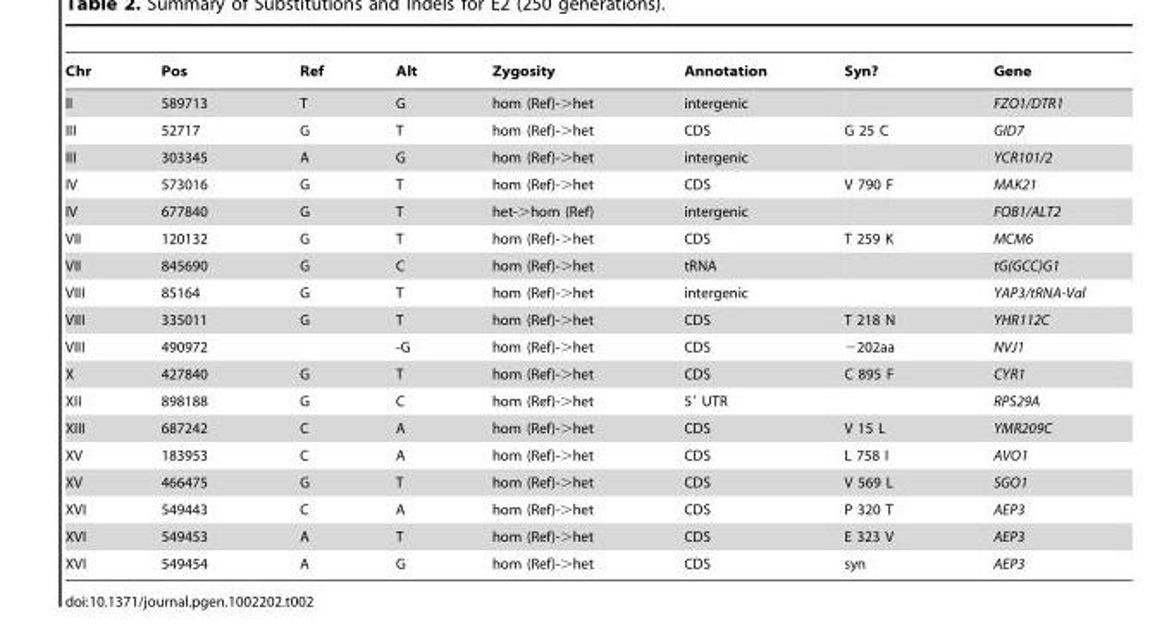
<table><thead><tr><td>Chr</td><td>Pos</td><td>Ref</td><td>Alt</td><td>Zygosity</td><td>Annotation</td><td>Syn?</td><td>Gene</td></tr></thead><tbody><tr><td>II</td><td>589713</td><td>T</td><td>G</td><td>hom (Ref)-&gt;het</td><td>intergenic</td><td></td><td>FZO1/DTR1</td></tr><tr><td>III</td><td>52717</td><td>G</td><td>T</td><td>hom (Ref)-&gt;het</td><td>CDS</td><td>G 25 C</td><td>GID7</td></tr><tr><td>III</td><td>303345</td><td>A</td><td>G</td><td>hom (Ref)-&gt;het</td><td>intergenic</td><td></td><td>YCR101/2</td></tr><tr><td>IV</td><td>573016</td><td>G</td><td>T</td><td>hom (Ref)-&gt;het</td><td>CDS</td><td>V 790 F</td><td>MAK21</td></tr><tr><td>IV</td><td>677840</td><td>G</td><td>T</td><td>het-&gt;hom (Ref)</td><td>intergenic</td><td></td><td>FOB1/ALT2</td></tr><tr><td>VII</td><td>120132</td><td>G</td><td>T</td><td>hom (Ref)-&gt;het</td><td>CDS</td><td>T 259 K</td><td>MCM6</td></tr><tr><td>VII</td><td>845690</td><td>G</td><td>C</td><td>hom (Ref)-&gt;het</td><td>tRNA</td><td></td><td>tG(GCC)G1</td></tr><tr><td>VIII</td><td>85164</td><td>G</td><td>T</td><td>hom (Ref)-&gt;het</td><td>intergenic</td><td></td><td>YAP3/tRNA-Val</td></tr><tr><td>VIII</td><td>335011</td><td>G</td><td>T</td><td>hom (Ref)-&gt;het</td><td>CDS</td><td>T 218 N</td><td>YHR112C</td></tr><tr><td>VIII</td><td>490972</td><td></td><td>-G</td><td>hom (Ref)-&gt;het</td><td>CDS</td><td>−202aa</td><td>NVJ1</td></tr><tr><td>X</td><td>427840</td><td>G</td><td>T</td><td>hom (Ref)-&gt;het</td><td>CDS</td><td>C 895 F</td><td>CYR1</td></tr><tr><td>XII</td><td>898188</td><td>G</td><td>C</td><td>hom (Ref)-&gt;het</td><td>5′ UTR</td><td></td><td>RPS29A</td></tr><tr><td>XIII</td><td>687242</td><td>C</td><td>A</td><td>hom (Ref)-&gt;het</td><td>CDS</td><td>V 15 L</td><td>YMR209C</td></tr><tr><td>XV</td><td>183953</td><td>C</td><td>A</td><td>hom (Ref)-&gt;het</td><td>CDS</td><td>L 758 I</td><td>AVO1</td></tr><tr><td>XV</td><td>466475</td><td>G</td><td>T</td><td>hom (Ref)-&gt;het</td><td>CDS</td><td>V 569 L</td><td>SGO1</td></tr><tr><td>XVI</td><td>549443</td><td>C</td><td>A</td><td>hom (Ref)-&gt;het</td><td>CDS</td><td>P 320 T</td><td>AEP3</td></tr><tr><td>XVI</td><td>549453</td><td>A</td><td>T</td><td>hom (Ref)-&gt;het</td><td>CDS</td><td>E 323 V</td><td>AEP3</td></tr><tr><td>XVI</td><td>549454</td><td>A</td><td>G</td><td>hom (Ref)-&gt;het</td><td>CDS</td><td>syn</td><td>AEP3</td></tr></tbody></table>